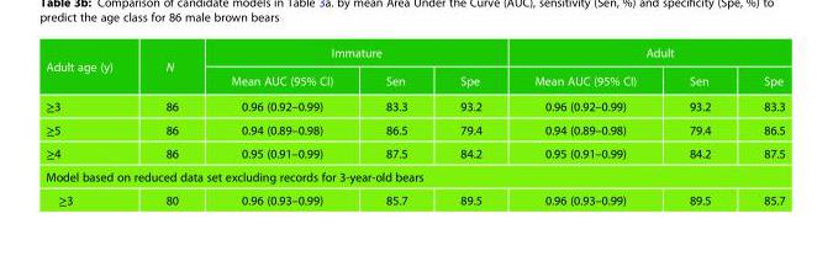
<table><thead><tr><td rowspan="2">Adult age (y)</td><td rowspan="2">N</td><td colspan="3">Immature</td><td colspan="3">Adult</td></tr><tr><td>Mean AUC (95% CI)</td><td>Sen</td><td>Spe</td><td>Mean AUC (95% CI)</td><td>Sen</td><td>Spe</td></tr></thead><tbody><tr><td>≥3</td><td>86</td><td>0.96 (0.92–0.99)</td><td>83.3</td><td>93.2</td><td>0.96 (0.92–0.99)</td><td>93.2</td><td>83.3</td></tr><tr><td>≥5</td><td>86</td><td>0.94 (0.89–0.98)</td><td>86.5</td><td>79.4</td><td>0.94 (0.89–0.98)</td><td>79.4</td><td>86.5</td></tr><tr><td>≥4</td><td>86</td><td>0.95 (0.91–0.99)</td><td>87.5</td><td>84.2</td><td>0.95 (0.91–0.99)</td><td>84.2</td><td>87.5</td></tr><tr><td colspan="8">Model based on reduced data set excluding records for 3-year-old bears</td></tr><tr><td>≥3</td><td>80</td><td>0.96 (0.93–0.99)</td><td>85.7</td><td>89.5</td><td>0.96 (0.93–0.99)</td><td>89.5</td><td>85.7</td></tr></tbody></table>